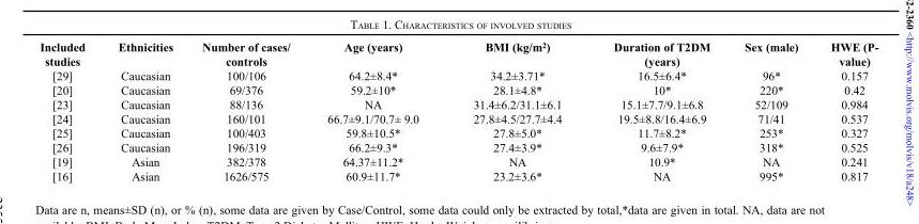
<table><thead><tr><td>Included studies</td><td>Ethnicities</td><td>Number of cases/ controls</td><td>Age (years)</td><td>BMI (kg/m<sup>2</sup>)</td><td>Duration of T2DM (years)</td><td>Sex (male)</td><td>HWE (P- value)</td></tr></thead><tbody><tr><td>[29]</td><td>Caucasian</td><td>100/106</td><td>64.2±8.4*</td><td>34.2±3.71*</td><td>16.5±6.4*</td><td>96*</td><td>0.157</td></tr><tr><td>[20]</td><td>Caucasian</td><td>69/376</td><td>59.2±10*</td><td>28.1±4.8*</td><td>10*</td><td>220*</td><td>0.42</td></tr><tr><td>[23]</td><td>Caucasian</td><td>88/136</td><td>NA</td><td>31.4±6.2/31.1±6.1</td><td>15.1±7.7/9.1±6.8</td><td>52/109</td><td>0.984</td></tr><tr><td>[24]</td><td>Caucasian</td><td>160/101</td><td>66.7±9.1/70.7± 9.0</td><td>27.8±4.5/27.7±4.4</td><td>19.5±8.8/16.4±6.9</td><td>71/41</td><td>0.537</td></tr><tr><td>[25]</td><td>Caucasian</td><td>100/403</td><td>59.8±10.5*</td><td>27.8±5.0*</td><td>11.7±8.2*</td><td>253*</td><td>0.327</td></tr><tr><td>[26]</td><td>Caucasian</td><td>196/319</td><td>66.2±9.3*</td><td>27.4±3.9*</td><td>9.6±7.9*</td><td>318*</td><td>0.525</td></tr><tr><td>[19]</td><td>Asian</td><td>382/378</td><td>64.37±11.2*</td><td>NA</td><td>10.9*</td><td>NA</td><td>0.241</td></tr><tr><td>[16]</td><td>Asian</td><td>1626/575</td><td>60.9±11.7*</td><td>23.2±3.6*</td><td>NA</td><td>995*</td><td>0.817</td></tr></tbody></table>